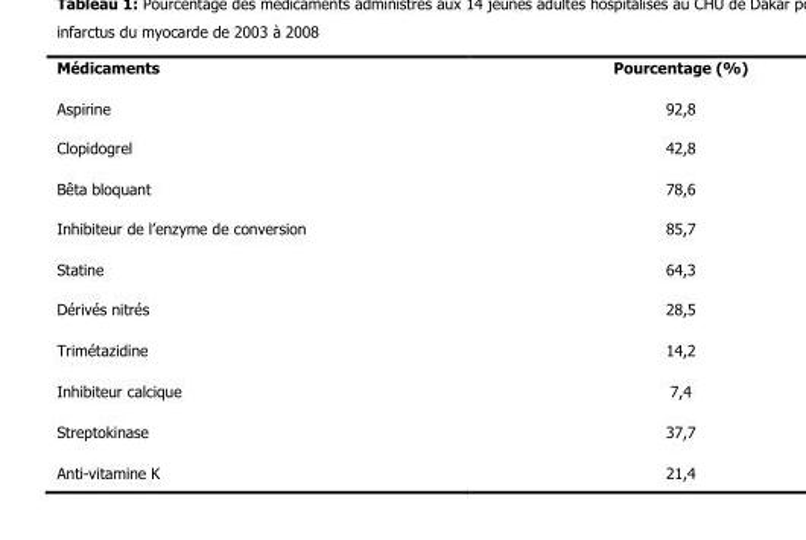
<table><thead><tr><td rowspan="11">Médicaments Aspirine Clopidogrel Bêta bloquant Inhibiteur de l’enzyme de conversion Statine Dérivés nitrés Trimétazidine Inhibiteur calcique Streptokinase Anti-vitamine K</td><td rowspan="11">Pourcentage (%) 92,8 42,8 78,6 85,7 64,3 28,5 14,2 7,4 37,7 21,4</td></tr><tr></tr><tr></tr><tr></tr><tr></tr><tr></tr><tr></tr><tr></tr><tr></tr><tr></tr><tr></tr></thead><tbody></tbody></table>